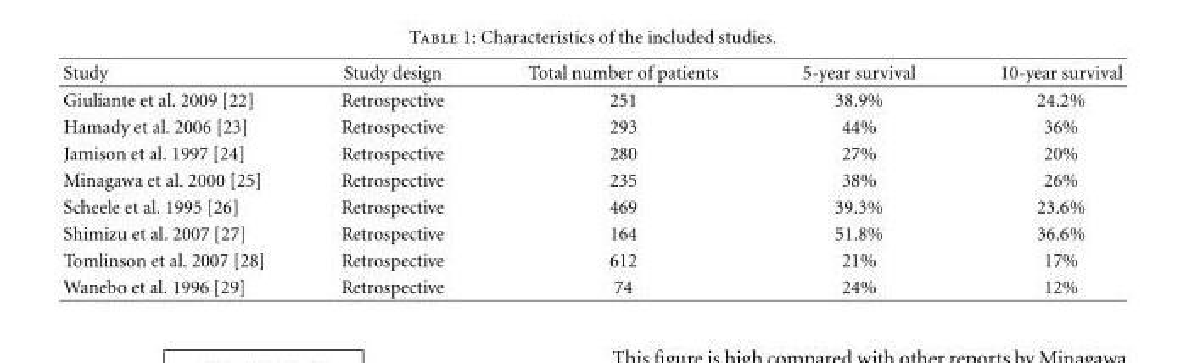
<table><thead><tr><td>Study</td><td>Study design</td><td>Total number of patients</td><td>5-year survival</td><td>10-year survival</td></tr></thead><tbody><tr><td>Giuliante et al. 2009 [22]</td><td>Retrospective</td><td>251</td><td>38.9%</td><td>24.2%</td></tr><tr><td>Hamady et al. 2006 [23]</td><td>Retrospective</td><td>293</td><td>44%</td><td>36%</td></tr><tr><td>Jamison et al. 1997 [24]</td><td>Retrospective</td><td>280</td><td>27%</td><td>20%</td></tr><tr><td>Minagawa et al. 2000 [25]</td><td>Retrospective</td><td>235</td><td>38%</td><td>26%</td></tr><tr><td>Scheele et al. 1995 [26]</td><td>Retrospective</td><td>469</td><td>39.3%</td><td>23.6%</td></tr><tr><td>Shimizu et al. 2007 [27]</td><td>Retrospective</td><td>164</td><td>51.8%</td><td>36.6%</td></tr><tr><td>Tomlinson et al. 2007 [28]</td><td>Retrospective</td><td>612</td><td>21%</td><td>17%</td></tr><tr><td>Wanebo et al. 1996 [29]</td><td>Retrospective</td><td>74</td><td>24%</td><td>12%</td></tr></tbody></table>